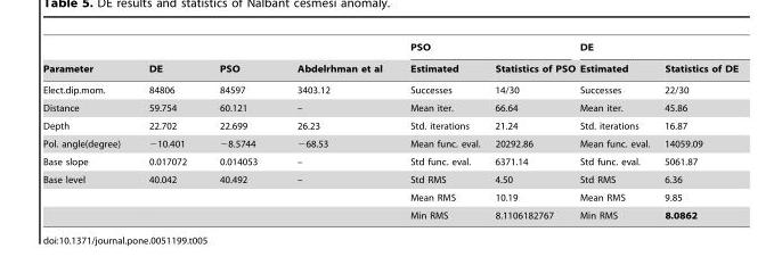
<table><thead><tr><td rowspan="2">Parameter</td><td rowspan="2">DE</td><td rowspan="2">PSO</td><td rowspan="2">Abdelrhman et al</td><td colspan="2">PSO</td><td colspan="2">DE</td></tr><tr><td>Estimated</td><td>Statistics of PSO</td><td>Estimated</td><td>Statistics of DE</td></tr></thead><tbody><tr><td>Elect.dip.mom.</td><td>84806</td><td>84597</td><td>3403.12</td><td>Successes</td><td>14/30</td><td>Successes</td><td>22/30</td></tr><tr><td>Distance</td><td>59.754</td><td>60.121</td><td>–</td><td>Mean iter.</td><td>66.64</td><td>Mean iter.</td><td>45.86</td></tr><tr><td>Depth</td><td>22.702</td><td>22.699</td><td>26.23</td><td>Std. iterations</td><td>21.24</td><td>Std. iterations</td><td>16.87</td></tr><tr><td>Pol. angle(degree)</td><td>−10.401</td><td>−8.5744</td><td>−68.53</td><td>Mean func. eval.</td><td>20292.86</td><td>Mean func. eval.</td><td>14059.09</td></tr><tr><td>Base slope</td><td>0.017072</td><td>0.014053</td><td>–</td><td>Std func. eval.</td><td>6371.14</td><td>Std func. eval.</td><td>5061.87</td></tr><tr><td rowspan="3">Base level</td><td>40.042</td><td>40.492</td><td>–</td><td>Std RMS</td><td>4.50</td><td>Std RMS</td><td>6.36</td></tr><tr><td></td><td></td><td></td><td>Mean RMS</td><td>10.19</td><td>Mean RMS</td><td>9.85</td></tr><tr><td></td><td></td><td></td><td>Min RMS</td><td>8.1106182767</td><td>Min RMS</td><td>8.0862</td></tr></tbody></table>